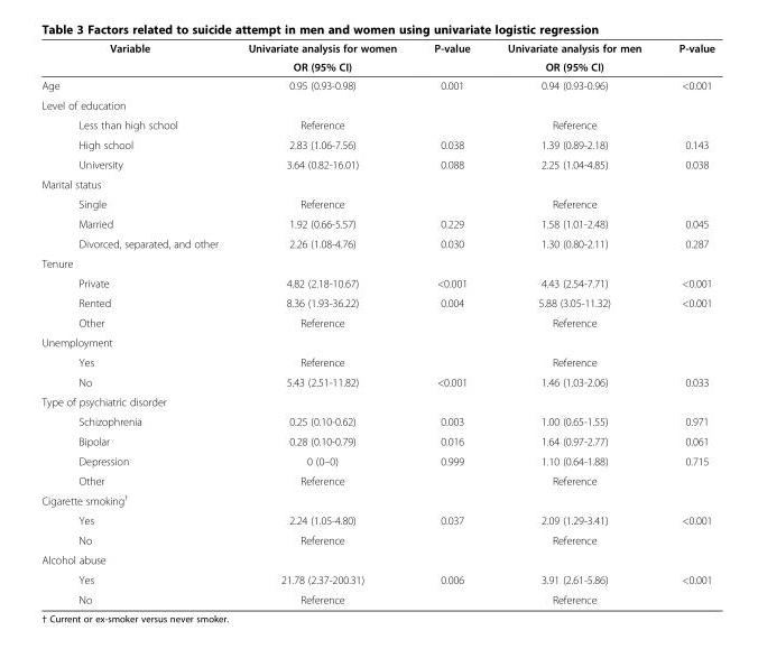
<table><thead><tr><td rowspan="2">Variable</td><td rowspan="2">Univariate analysis for women OR (95% CI)</td><td rowspan="2">P-value</td><td rowspan="2">Univariate analysis for men OR (95% CI)</td><td rowspan="2">P-value</td></tr><tr></tr></thead><tbody><tr><td>Age</td><td>0.95 (0.93-0.98)</td><td>0.001</td><td>0.94 (0.93-0.96)</td><td>&lt;0.001</td></tr><tr><td colspan="5">Level of education</td></tr><tr><td>Less than high school</td><td>Reference</td><td></td><td>Reference</td><td></td></tr><tr><td>High school</td><td>2.83 (1.06-7.56)</td><td>0.038</td><td>1.39 (0.89-2.18)</td><td>0.143</td></tr><tr><td>University</td><td>3.64 (0.82-16.01)</td><td>0.088</td><td>2.25 (1.04-4.85)</td><td>0.038</td></tr><tr><td colspan="5">Marital status</td></tr><tr><td>Single</td><td>Reference</td><td></td><td>Reference</td><td></td></tr><tr><td>Married</td><td>1.92 (0.66-5.57)</td><td>0.229</td><td>1.58 (1.01-2.48)</td><td>0.045</td></tr><tr><td>Divorced, separated, and other</td><td>2.26 (1.08-4.76)</td><td>0.030</td><td>1.30 (0.80-2.11)</td><td>0.287</td></tr><tr><td colspan="5">Tenure</td></tr><tr><td>Private</td><td>4.82 (2.18-10.67)</td><td>&lt;0.001</td><td>4.43 (2.54-7.71)</td><td>&lt;0.001</td></tr><tr><td>Rented</td><td>8.36 (1.93-36.22)</td><td>0.004</td><td>5.88 (3.05-11.32)</td><td>&lt;0.001</td></tr><tr><td>Other</td><td>Reference</td><td></td><td>Reference</td><td></td></tr><tr><td colspan="5">Unemployment</td></tr><tr><td>Yes</td><td>Reference</td><td></td><td>Reference</td><td></td></tr><tr><td>No</td><td>5.43 (2.51-11.82)</td><td>&lt;0.001</td><td>1.46 (1.03-2.06)</td><td>0.033</td></tr><tr><td colspan="5">Type of psychiatric disorder</td></tr><tr><td>Schizophrenia</td><td>0.25 (0.10-0.62)</td><td>0.003</td><td>1.00 (0.65-1.55)</td><td>0.971</td></tr><tr><td>Bipolar</td><td>0.28 (0.10-0.79)</td><td>0.016</td><td>1.64 (0.97-2.77)</td><td>0.061</td></tr><tr><td>Depression</td><td>0 (0–0)</td><td>0.999</td><td>1.10 (0.64-1.88)</td><td>0.715</td></tr><tr><td>Other</td><td>Reference</td><td></td><td>Reference</td><td></td></tr><tr><td colspan="5">Cigarette smoking<sup>†</sup></td></tr><tr><td>Yes</td><td>2.24 (1.05-4.80)</td><td>0.037</td><td>2.09 (1.29-3.41)</td><td>&lt;0.001</td></tr><tr><td>No</td><td>Reference</td><td></td><td>Reference</td><td></td></tr><tr><td colspan="5">Alcohol abuse</td></tr><tr><td>Yes</td><td>21.78 (2.37-200.31)</td><td>0.006</td><td>3.91 (2.61-5.86)</td><td>&lt;0.001</td></tr><tr><td>No</td><td>Reference</td><td></td><td>Reference</td><td></td></tr></tbody></table>